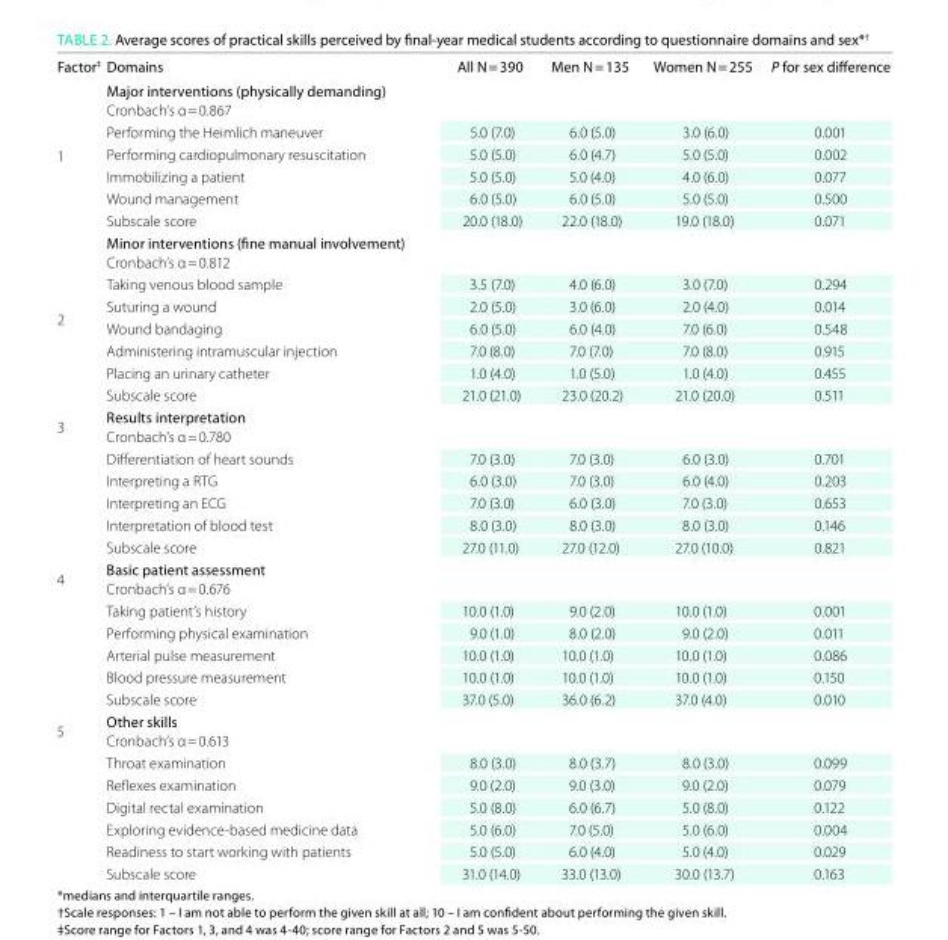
<table><thead><tr><td>Factor<sup>‡</sup></td><td>Domains</td><td>all N = 390</td><td>Men N = 135</td><td>Women N = 255</td><td>P for sex difference</td></tr></thead><tbody><tr><td rowspan="6">1</td><td>Major interventions (physically demanding) Cronbach’s α = 0.867</td><td></td><td></td><td></td><td></td></tr><tr><td>Performing the Heimlich maneuver</td><td>5.0 (7.0)</td><td>6.0 (5.0)</td><td>3.0 (6.0)</td><td>0.001</td></tr><tr><td>Performing cardiopulmonary resuscitation</td><td>5.0 (5.0)</td><td>6.0 (4.7)</td><td>5.0 (5.0)</td><td>0.002</td></tr><tr><td>Immobilizing a patient</td><td>5.0 (5.0)</td><td>5.0 (4.0)</td><td>4.0 (6.0)</td><td>0.077</td></tr><tr><td>Wound management</td><td>6.0 (5.0)</td><td>6.0 (5.0)</td><td>5.0 (5.0)</td><td>0.500</td></tr><tr><td>Subscale score</td><td>20.0 (18.0)</td><td>22.0 (18.0)</td><td>19.0 (18.0)</td><td>0.071</td></tr><tr><td rowspan="7">2</td><td>Minor interventions (fine manual involvement) Cronbach’s α = 0.812</td><td></td><td></td><td></td><td></td></tr><tr><td>Taking venous blood sample</td><td>3.5 (7.0)</td><td>4.0 (6.0)</td><td>3.0 (7.0)</td><td>0.294</td></tr><tr><td>Suturing a wound</td><td>2.0 (5.0)</td><td>3.0 (6.0)</td><td>2.0 (4.0)</td><td>0.014</td></tr><tr><td>Wound bandaging</td><td>6.0 (5.0)</td><td>6.0 (4.0)</td><td>7.0 (6.0)</td><td>0.548</td></tr><tr><td>Administering intramuscular injection</td><td>7.0 (8.0)</td><td>7.0 (7.0)</td><td>7.0 (8.0)</td><td>0.915</td></tr><tr><td>Placing an urinary catheter</td><td>1.0 (4.0)</td><td>1.0 (5.0)</td><td>1.0 (4.0)</td><td>0.455</td></tr><tr><td>Subscale score</td><td>21.0 (21.0)</td><td>23.0 (20.2)</td><td>21.0 (20.0)</td><td>0.511</td></tr><tr><td rowspan="6">3</td><td>results interpretation Cronbach’s α = 0.780</td><td></td><td></td><td></td><td></td></tr><tr><td>Differentiation of heart sounds</td><td>7.0 (3.0)</td><td>7.0 (3.0)</td><td>6.0 (3.0)</td><td>0.701</td></tr><tr><td>Interpreting a RTG</td><td>6.0 (3.0)</td><td>7.0 (3.0)</td><td>6.0 (4.0)</td><td>0.203</td></tr><tr><td>Interpreting an ECG</td><td>7.0 (3.0)</td><td>6.0 (3.0)</td><td>7.0 (3.0)</td><td>0.653</td></tr><tr><td>Interpretation of blood test</td><td>8.0 (3.0)</td><td>8.0 (3.0)</td><td>8.0 (3.0)</td><td>0.146</td></tr><tr><td>Subscale score</td><td>27.0 (11.0)</td><td>27.0 (12.0)</td><td>27.0 (10.0)</td><td>0.821</td></tr><tr><td rowspan="6">4</td><td>basic patient assessment Cronbach’s α = 0.676</td><td></td><td></td><td></td><td></td></tr><tr><td>Taking patient’s history</td><td>10.0 (1.0)</td><td>9.0 (2.0)</td><td>10.0 (1.0)</td><td>0.001</td></tr><tr><td>Performing physical examination</td><td>9.0 (1.0)</td><td>8.0 (2.0)</td><td>9.0 (2.0)</td><td>0.011</td></tr><tr><td>Arterial pulse measurement</td><td>10.0 (1.0)</td><td>10.0 (1.0)</td><td>10.0 (1.0)</td><td>0.086</td></tr><tr><td>Blood pressure measurement</td><td>10.0 (1.0)</td><td>10.0 (1.0)</td><td>10.0 (1.0)</td><td>0.150</td></tr><tr><td>Subscale score</td><td>37.0 (5.0)</td><td>36.0 (6.2)</td><td>37.0 (4.0)</td><td>0.010</td></tr><tr><td rowspan="7">5</td><td>other skills Cronbach’s α = 0.613</td><td></td><td></td><td></td><td></td></tr><tr><td>Throat examination</td><td>8.0 (3.0)</td><td>8.0 (3.7)</td><td>8.0 (3.0)</td><td>0.099</td></tr><tr><td>Reflexes examination</td><td>9.0 (2.0)</td><td>9.0 (3.0)</td><td>9.0 (2.0)</td><td>0.079</td></tr><tr><td>Digital rectal examination</td><td>5.0 (8.0)</td><td>6.0 (6.7)</td><td>5.0 (8.0)</td><td>0.122</td></tr><tr><td>Exploring evidence-based medicine data</td><td>5.0 (6.0)</td><td>7.0 (5.0)</td><td>5.0 (6.0)</td><td>0.004</td></tr><tr><td>Readiness to start working with patients</td><td>5.0 (5.0)</td><td>6.0 (4.0)</td><td>5.0 (4.0)</td><td>0.029</td></tr><tr><td>Subscale score</td><td>31.0 (14.0)</td><td>33.0 (13.0)</td><td>30.0 (13.7)</td><td>0.163</td></tr></tbody></table>